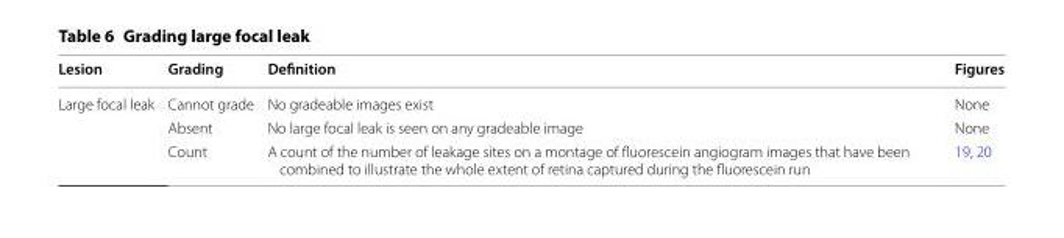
<table><thead><tr><td>Lesion</td><td>Grading</td><td>Definition</td><td>Figures</td></tr></thead><tbody><tr><td rowspan="3">Large focal leak</td><td>Cannot grade</td><td>No gradeable images exist</td><td>None</td></tr><tr><td>Absent</td><td>No large focal leak is seen on any gradeable image</td><td>None</td></tr><tr><td>Count</td><td>A count of the number of leakage sites on a montage of fluorescein angiogram images that have been combined to illustrate the whole extent of retina captured during the fluorescein run</td><td>19, 20</td></tr></tbody></table>